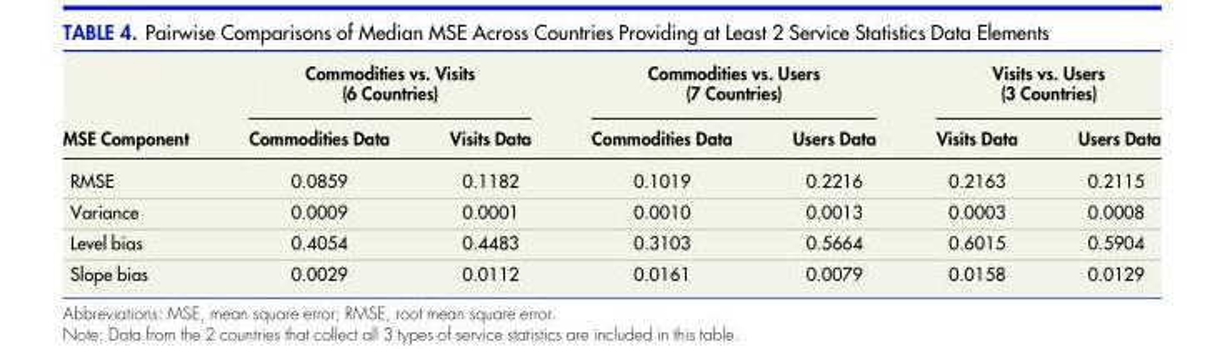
<table><thead><tr><td rowspan="2">MSE Component</td><td colspan="2">Commodities vs. Visits (6 Countries)</td><td colspan="2">Commodities vs. Users (7 Countries)</td><td colspan="2">Visits vs. Users (3 Countries)</td></tr><tr><td>Commodities Data</td><td>Visits Data</td><td>Commodities Data</td><td>Users Data</td><td>Visits Data</td><td>Users Data</td></tr></thead><tbody><tr><td>RMSE</td><td>0.0859</td><td>0.1182</td><td>0.1019</td><td>0.2216</td><td>0.2163</td><td>0.2115</td></tr><tr><td>Variance</td><td>0.0009</td><td>0.0001</td><td>0.0010</td><td>0.0013</td><td>0.0003</td><td>0.0008</td></tr><tr><td>Level bias</td><td>0.4054</td><td>0.4483</td><td>0.3103</td><td>0.5664</td><td>0.6015</td><td>0.5904</td></tr><tr><td>Slope bias</td><td>0.0029</td><td>0.0112</td><td>0.0161</td><td>0.0079</td><td>0.0158</td><td>0.0129</td></tr></tbody></table>